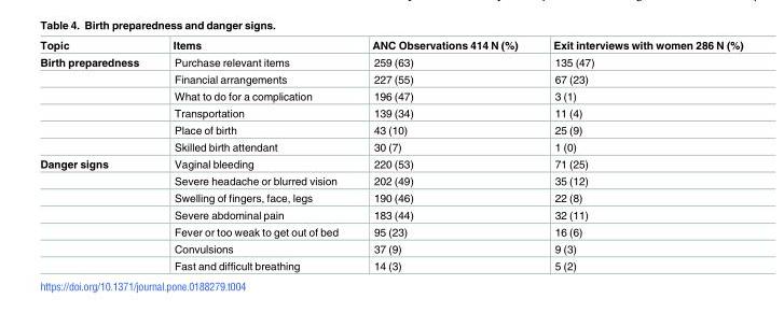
<table><thead><tr><td>Topic</td><td>Items</td><td>ANC Observations 414 N (%)</td><td>Exit interviews with women 286 N (%)</td></tr></thead><tbody><tr><td rowspan="6">Birth preparedness</td><td>Purchase relevant items</td><td>259 (63)</td><td>135 (47)</td></tr><tr><td>Financial arrangements</td><td>227 (55)</td><td>67 (23)</td></tr><tr><td>What to do for a complication</td><td>196 (47)</td><td>3 (1)</td></tr><tr><td>Transportation</td><td>139 (34)</td><td>11 (4)</td></tr><tr><td>Place of birth</td><td>43 (10)</td><td>25 (9)</td></tr><tr><td>Skilled birth attendant</td><td>30 (7)</td><td>1 (0)</td></tr><tr><td rowspan="7">Danger signs</td><td>Vaginal bleeding</td><td>220 (53)</td><td>71 (25)</td></tr><tr><td>Severe headache or blurred vision</td><td>202 (49)</td><td>35 (12)</td></tr><tr><td>Swelling of fingers, face, legs</td><td>190 (46)</td><td>22 (8)</td></tr><tr><td>Severe abdominal pain</td><td>183 (44)</td><td>32 (11)</td></tr><tr><td>Fever or too weak to get out of bed</td><td>95 (23)</td><td>16 (6)</td></tr><tr><td>Convulsions</td><td>37 (9)</td><td>9 (3)</td></tr><tr><td>Fast and difficult breathing</td><td>14 (3)</td><td>5 (2)</td></tr></tbody></table>